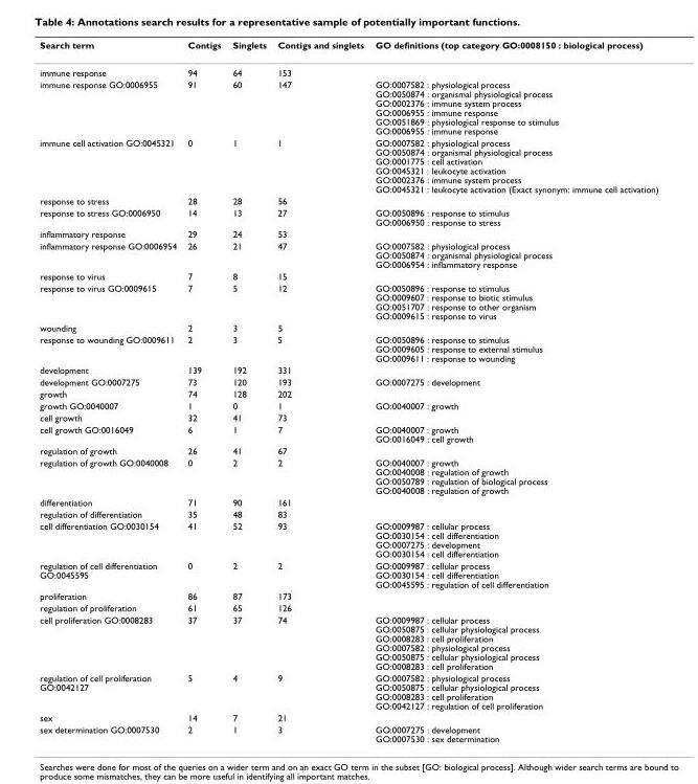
<table><thead><tr><td>Search term</td><td>Contigs</td><td>Singlets</td><td>Contigs and singlets</td><td>GO definitions (top category GO:0008150 : biological process)</td></tr></thead><tbody><tr><td>immune response</td><td>94</td><td>64</td><td>153</td><td></td></tr><tr><td>immune response GO:0006955</td><td>91</td><td>60</td><td>147</td><td>GO:0007582 : physiological process GO:0050874 : organismal physiological process GO:0002376 : immune system process GO:0006955 : immune response GO:0051869 : physiological response to stimulus GO:0006955 : immune response</td></tr><tr><td>immune cell activation GO:0045321</td><td>0</td><td>1</td><td>1</td><td>GO:0007582 : physiological process GO:0050874 : organismal physiological process GO:0001775 : cell activation GO:0045321 : leukocyte activation GO:0002376 : immune system process GO:0045321 : leukocyte activation (Exact synonym: immune cell activation)</td></tr><tr><td>response to stress</td><td>28</td><td>28</td><td>56</td><td></td></tr><tr><td>response to stress GO:0006950</td><td>14</td><td>13</td><td>27</td><td>GO:0050896 : response to stimulus GO:0006950 : response to stress</td></tr><tr><td>inflammatory response</td><td>29</td><td>24</td><td>53</td><td></td></tr><tr><td>inflammatory response GO:0006954</td><td>26</td><td>21</td><td>47</td><td>GO:0007582 : physiological process GO:0050874 : organismal physiological process GO:0006954 : inflammatory response</td></tr><tr><td>response to virus</td><td>7</td><td>8</td><td>15</td><td></td></tr><tr><td>response to virus GO:0009615</td><td>7</td><td>5</td><td>12</td><td>GO:0050896 : response to stimulus GO:0009607 : response to biotic stimulus GO:0051707 : response to other organism GO:0009615 : response to virus</td></tr><tr><td>wounding</td><td>2</td><td>3</td><td>5</td><td></td></tr><tr><td>response to wounding GO:0009611</td><td>2</td><td>3</td><td>5</td><td>GO:0050896 : response to stimulus GO:0009605 : response to external stimulus GO:0009611 : response to wounding</td></tr><tr><td>development</td><td>139</td><td>192</td><td>331</td><td></td></tr><tr><td>development GO:0007275</td><td>73</td><td>120</td><td>193</td><td>GO:0007275 : development</td></tr><tr><td>growth</td><td>74</td><td>128</td><td>202</td><td></td></tr><tr><td>growth GO:0040007</td><td>1</td><td>0</td><td>1</td><td>GO:0040007 : growth</td></tr><tr><td>cell growth</td><td>32</td><td>41</td><td>73</td><td></td></tr><tr><td>cell growth GO:0016049</td><td>6</td><td>1</td><td>7</td><td>GO:0040007 : growth GO:0016049 : cell growth</td></tr><tr><td>regulation of growth</td><td>26</td><td>41</td><td>67</td><td></td></tr><tr><td>regulation of growth GO:0040008</td><td>0</td><td>2</td><td>2</td><td>GO:0040007 : growth GO:0040008 : regulation of growth GO:0050789 : regulation of biological process GO:0040008 : regulation of growth</td></tr><tr><td>differentiation</td><td>71</td><td>90</td><td>161</td><td></td></tr><tr><td>regulation of differentiation</td><td>35</td><td>48</td><td>83</td><td></td></tr><tr><td>cell differentiation GO:0030154</td><td>41</td><td>52</td><td>93</td><td>GO:0009987 : cellular process GO:0030154 : cell differentiation GO:0007275 : development GO:0030154 : cell differentiation</td></tr><tr><td>regulation of cell differentiation GO:0045595</td><td>0</td><td>2</td><td>2</td><td>GO:0009987 : cellular process GO:0030154 : cell differentiation GO:0045595 : regulation of cell differentiation</td></tr><tr><td>proliferation</td><td>86</td><td>87</td><td>173</td><td></td></tr><tr><td>regulation of proliferation</td><td>61</td><td>65</td><td>126</td><td></td></tr><tr><td>cell proliferation GO:0008283</td><td>37</td><td>37</td><td>74</td><td>GO:0009987 : cellular process GO:0050875 : cellular physiological process GO:0008283 : cell proliferation GO:0007582 : physiological process GO:0050875 : cellular physiological process GO:0008283 : cell proliferation</td></tr><tr><td>regulation of cell proliferation GO:0042127</td><td>5</td><td>4</td><td>9</td><td>GO:0007582 : physiological process GO:0050875 : cellular physiological process GO:0008283 : cell proliferation GO:0042127 : regulation of cell proliferation</td></tr><tr><td>sex</td><td>14</td><td>7</td><td>21</td><td></td></tr><tr><td>sex determination GO:0007530</td><td>2</td><td>1</td><td>3</td><td>GO:0007275 : development GO:0007530 : sex determination</td></tr></tbody></table>